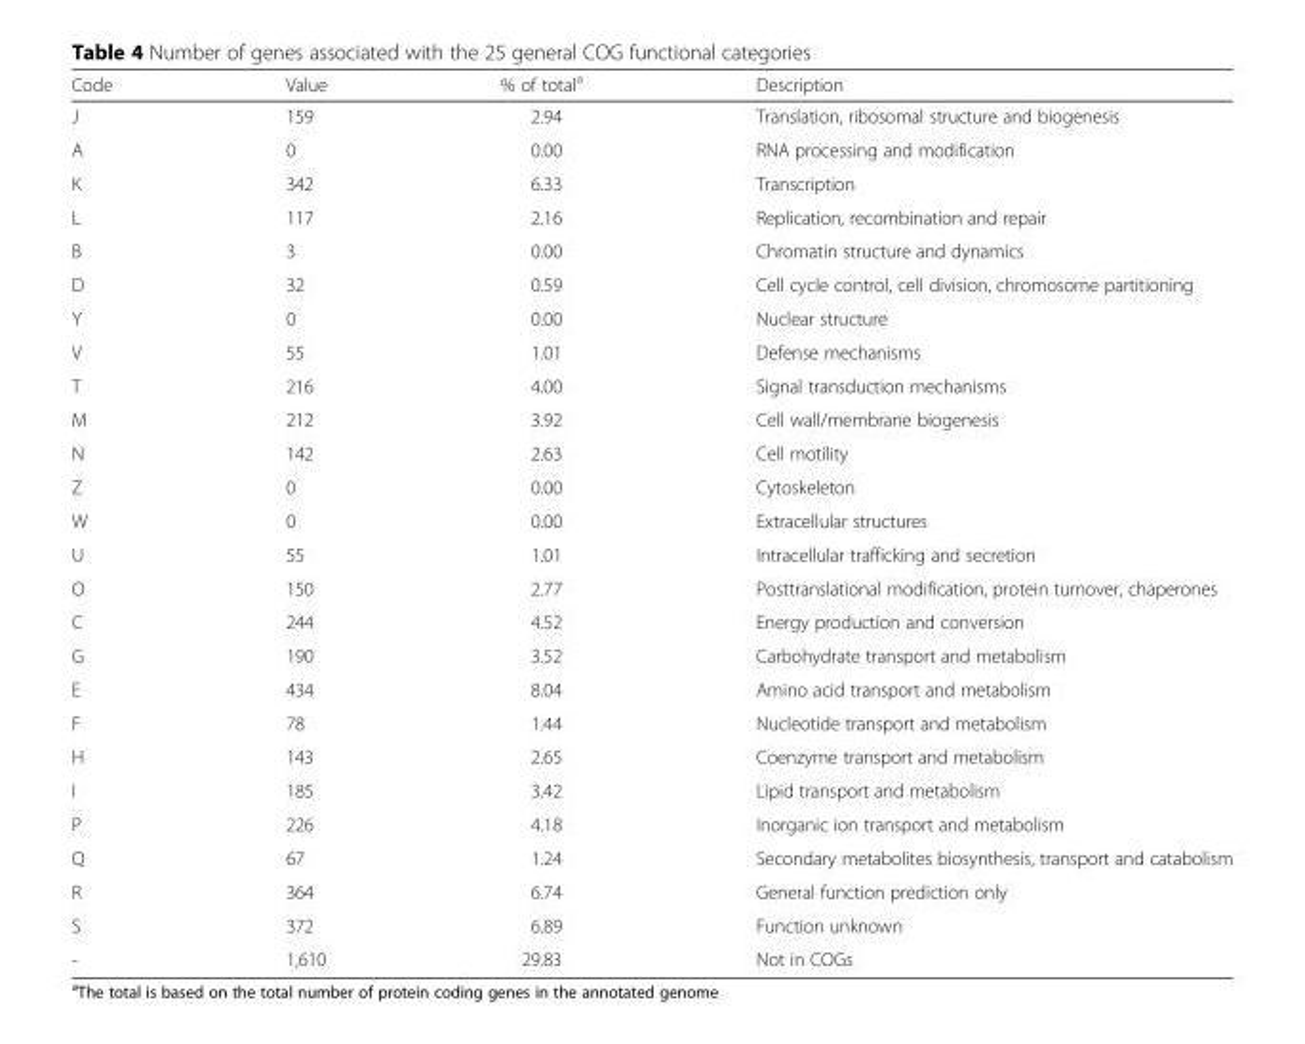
<table><thead><tr><td>Code</td><td>Value</td><td>% of total<sup>a</sup></td><td>Description</td></tr></thead><tbody><tr><td>J</td><td>159</td><td>2.94</td><td>Translation, ribosomal structure and biogenesis</td></tr><tr><td>A</td><td>0</td><td>0.00</td><td>RNA processing and modification</td></tr><tr><td>K</td><td>342</td><td>6.33</td><td>Transcription</td></tr><tr><td>L</td><td>117</td><td>2.16</td><td>Replication, recombination and repair</td></tr><tr><td>B</td><td>3</td><td>0.00</td><td>Chromatin structure and dynamics</td></tr><tr><td>D</td><td>32</td><td>0.59</td><td>Cell cycle control, cell division, chromosome partitioning</td></tr><tr><td>Y</td><td>0</td><td>0.00</td><td>Nuclear structure</td></tr><tr><td>V</td><td>55</td><td>1.01</td><td>Defense mechanisms</td></tr><tr><td>T</td><td>216</td><td>4.00</td><td>Signal transduction mechanisms</td></tr><tr><td>M</td><td>212</td><td>3.92</td><td>Cell wall/membrane biogenesis</td></tr><tr><td>N</td><td>142</td><td>2.63</td><td>Cell motility</td></tr><tr><td>Z</td><td>0</td><td>0.00</td><td>Cytoskeleton</td></tr><tr><td>W</td><td>0</td><td>0.00</td><td>Extracellular structures</td></tr><tr><td>U</td><td>55</td><td>1.01</td><td>Intracellular trafficking and secretion</td></tr><tr><td>O</td><td>150</td><td>2.77</td><td>Posttranslational modification, protein turnover, chaperones</td></tr><tr><td>C</td><td>244</td><td>4.52</td><td>Energy production and conversion</td></tr><tr><td>G</td><td>190</td><td>3.52</td><td>Carbohydrate transport and metabolism</td></tr><tr><td>E</td><td>434</td><td>8.04</td><td>Amino acid transport and metabolism</td></tr><tr><td>F</td><td>78</td><td>1.44</td><td>Nucleotide transport and metabolism</td></tr><tr><td>H</td><td>143</td><td>2.65</td><td>Coenzyme transport and metabolism</td></tr><tr><td>I</td><td>185</td><td>3.42</td><td>Lipid transport and metabolism</td></tr><tr><td>P</td><td>226</td><td>4.18</td><td>Inorganic ion transport and metabolism</td></tr><tr><td>Q</td><td>67</td><td>1.24</td><td>Secondary metabolites biosynthesis, transport and catabolism</td></tr><tr><td>R</td><td>364</td><td>6.74</td><td>General function prediction only</td></tr><tr><td>S</td><td>372</td><td>6.89</td><td>Function unknown</td></tr><tr><td>-</td><td>1,610</td><td>29.83</td><td>Not in COGs</td></tr></tbody></table>